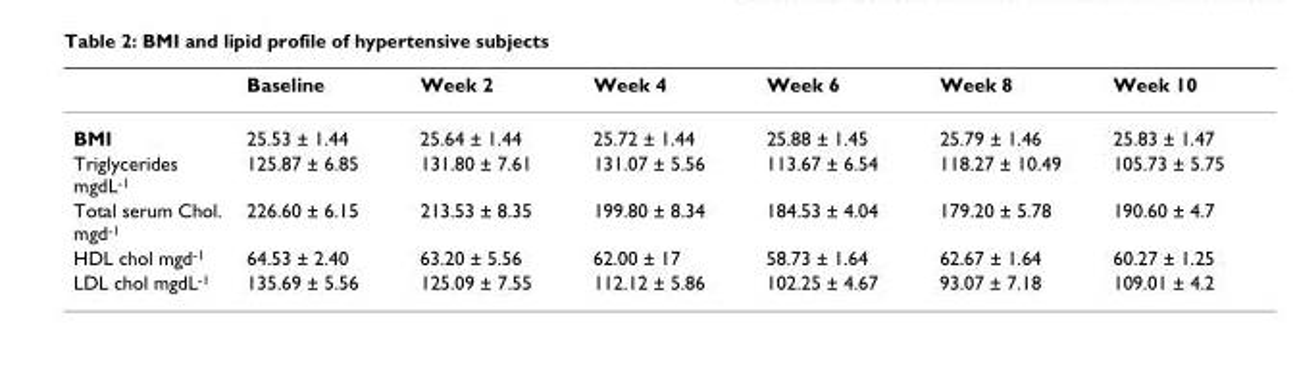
<table><thead><tr><td></td><td>Baseline</td><td>Week 2</td><td>Week 4</td><td>Week 6</td><td>Week 8</td><td>Week 10</td></tr></thead><tbody><tr><td>BMI</td><td>25.53 ± 1.44</td><td>25.64 ± 1.44</td><td>25.72 ± 1.44</td><td>25.88 ± 1.45</td><td>25.79 ± 1.46</td><td>25.83 ± 1.47</td></tr><tr><td>Triglycerides mgdL<sup>-1</sup></td><td>125.87 ± 6.85</td><td>131.80 ± 7.61</td><td>131.07 ± 5.56</td><td>113.67 ± 6.54</td><td>118.27 ± 10.49</td><td>105.73 ± 5.75</td></tr><tr><td>Total serum Chol. mgd<sup>-1</sup></td><td>226.60 ± 6.15</td><td>213.53 ± 8.35</td><td>199.80 ± 8.34</td><td>184.53 ± 4.04</td><td>179.20 ± 5.78</td><td>190.60 ± 4.7</td></tr><tr><td>HDL chol mgd<sup>-1</sup></td><td>64.53 ± 2.40</td><td>63.20 ± 5.56</td><td>62.00 ± 17</td><td>58.73 ± 1.64</td><td>62.67 ± 1.64</td><td>60.27 ± 1.25</td></tr><tr><td>LDL chol mgdL<sup>-1</sup></td><td>135.69 ± 5.56</td><td>125.09 ± 7.55</td><td>112.12 ± 5.86</td><td>102.25 ± 4.67</td><td>93.07 ± 7.18</td><td>109.01 ± 4.2</td></tr></tbody></table>